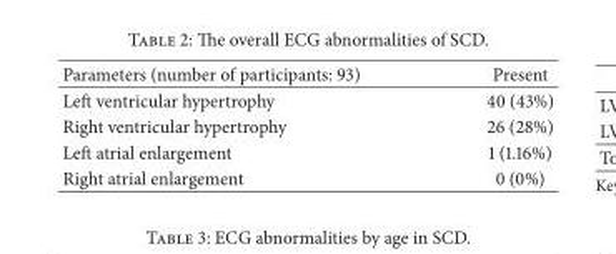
<table><thead><tr><td>Parameters (number of participants: 93)</td><td>Present</td></tr></thead><tbody><tr><td>Left ventricular hypertrophy</td><td>40 (43%)</td></tr><tr><td>Right ventricular hypertrophy</td><td>26 (28%)</td></tr><tr><td>Left atrial enlargement</td><td>1 (1.16%)</td></tr><tr><td>Right atrial enlargement</td><td>0 (0%)</td></tr></tbody></table>